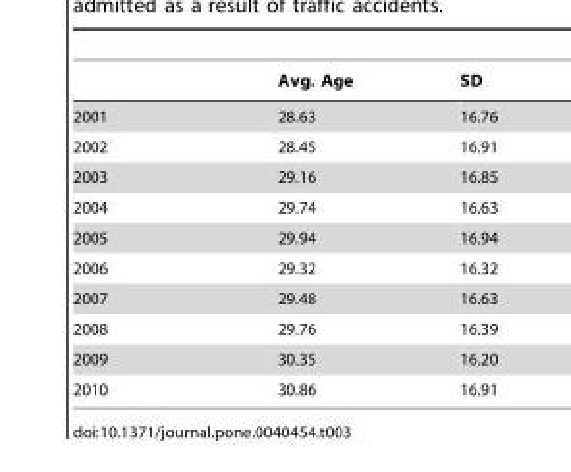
<table><thead><tr><td></td><td>Avg. Age</td><td>SD</td></tr></thead><tbody><tr><td>2001</td><td>28.63</td><td>16.76</td></tr><tr><td>2002</td><td>28.45</td><td>16.91</td></tr><tr><td>2003</td><td>29.16</td><td>16.85</td></tr><tr><td>2004</td><td>29.74</td><td>16.63</td></tr><tr><td>2005</td><td>29.94</td><td>16.94</td></tr><tr><td>2006</td><td>29.32</td><td>16.32</td></tr><tr><td>2007</td><td>29.48</td><td>16.63</td></tr><tr><td>2008</td><td>29.76</td><td>16.39</td></tr><tr><td>2009</td><td>30.35</td><td>16.20</td></tr><tr><td>2010</td><td>30.86</td><td>16.91</td></tr></tbody></table>